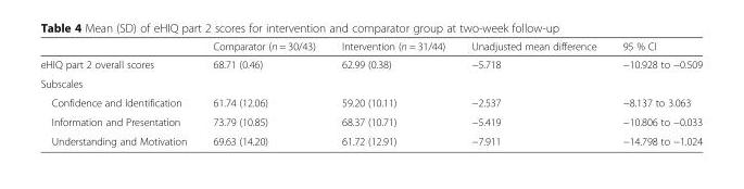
<table><thead><tr><td></td><td>Comparator (n = 30/43)</td><td>Intervention (n = 31/44)</td><td>Unadjusted mean difference</td><td>95 % CI</td></tr></thead><tbody><tr><td>eHIQ part 2 overall scores</td><td>68.71 (0.46)</td><td>62.99 (0.38)</td><td>−5.718</td><td>−10.928 to −0.509</td></tr><tr><td colspan="5">Subscales</td></tr><tr><td>Confidence and Identification</td><td>61.74 (12.06)</td><td>59.20 (10.11)</td><td>−2.537</td><td>−8.137 to 3.063</td></tr><tr><td>Information and Presentation</td><td>73.79 (10.85)</td><td>68.37 (10.71)</td><td>−5.419</td><td>−10.806 to −0.033</td></tr><tr><td>Understanding and Motivation</td><td>69.63 (14.20)</td><td>61.72 (12.91)</td><td>−7.911</td><td>−14.798 to −1.024</td></tr></tbody></table>